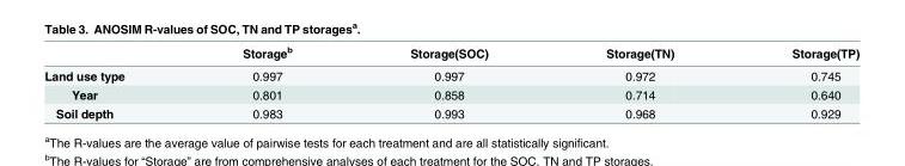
<table><thead><tr><td></td><td>Storage<sup>b</sup></td><td>Storage(SOC)</td><td>Storage(TN)</td><td>Storage(TP)</td></tr></thead><tbody><tr><td>Land use type</td><td>0.997</td><td>0.997</td><td>0.972</td><td>0.745</td></tr><tr><td>Year</td><td>0.801</td><td>0.858</td><td>0.714</td><td>0.640</td></tr><tr><td>Soil depth</td><td>0.983</td><td>0.993</td><td>0.968</td><td>0.929</td></tr></tbody></table>